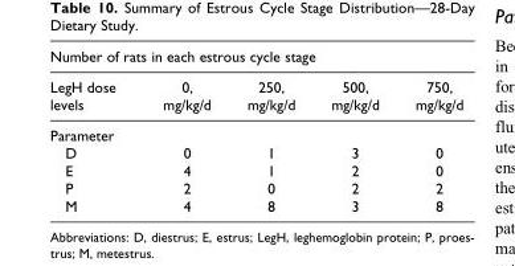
<table><thead><tr><td colspan="5">Number of rats in each estrous cycle stage</td></tr><tr><td>LegH dose levels</td><td>0, mg/kg/d</td><td>250, mg/kg/d</td><td>500, mg/kg/d</td><td>750, mg/kg/d</td></tr></thead><tbody><tr><td colspan="5">Parameter</td></tr><tr><td>D</td><td>0</td><td>1</td><td>3</td><td>0</td></tr><tr><td>E</td><td>4</td><td>1</td><td>2</td><td>0</td></tr><tr><td>P</td><td>2</td><td>0</td><td>2</td><td>2</td></tr><tr><td>M</td><td>4</td><td>8</td><td>3</td><td>8</td></tr></tbody></table>